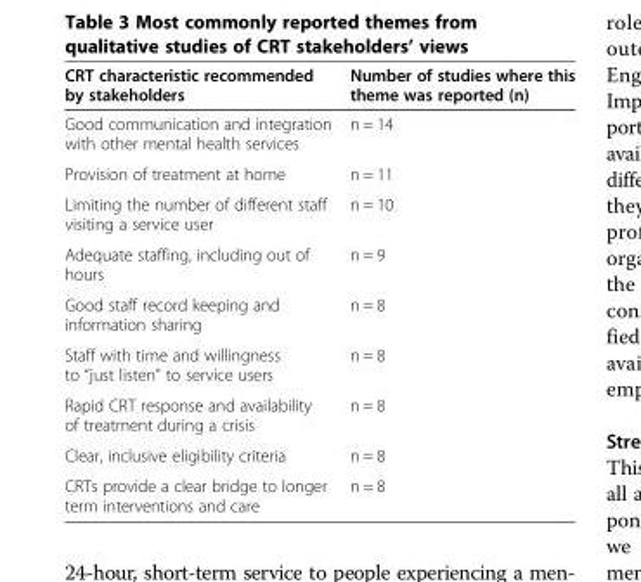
<table><thead><tr><td>CRT characteristic recommended by stakeholders</td><td>Number of studies where this theme was reported (n)</td></tr></thead><tbody><tr><td>Good communication and integration with other mental health services</td><td>n = 14</td></tr><tr><td>Provision of treatment at home</td><td>n = 11</td></tr><tr><td>Limiting the number of different staff visiting a service user</td><td>n = 10</td></tr><tr><td>Adequate staffing, including out of hours</td><td>n = 9</td></tr><tr><td>Good staff record keeping and information sharing</td><td>n = 8</td></tr><tr><td>Staff with time and willingness to “just listen” to service users</td><td>n = 8</td></tr><tr><td>Rapid CRT response and availability of treatment during a crisis</td><td>n = 8</td></tr><tr><td>Clear, inclusive eligibility criteria</td><td>n = 8</td></tr><tr><td>CRTs provide a clear bridge to longer term interventions and care</td><td>n = 8</td></tr></tbody></table>